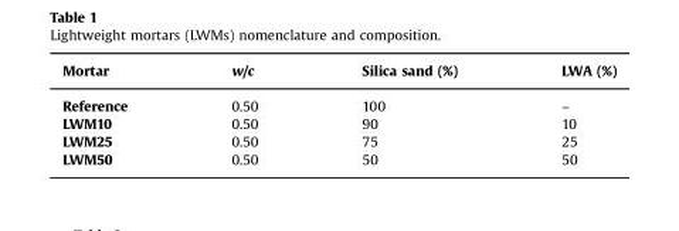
<table><thead><tr><td>Mortar</td><td>w/c</td><td>Silica sand (%)</td><td>LWA (%)</td></tr></thead><tbody><tr><td>Reference</td><td>0.50</td><td>100</td><td>–</td></tr><tr><td>LWM10</td><td>0.50</td><td>90</td><td>10</td></tr><tr><td>LWM25</td><td>0.50</td><td>75</td><td>25</td></tr><tr><td>LWM50</td><td>0.50</td><td>50</td><td>50</td></tr></tbody></table>